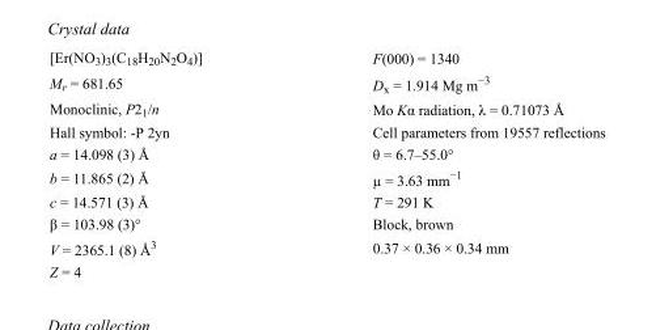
<table><tbody><tr><td>[Er(NO<sub>3</sub>)<sub>3</sub>(C<sub>18</sub>H<sub>20</sub>N<sub>2</sub>O<sub>4</sub>)]</td><td>F(000) = 1340</td></tr><tr><td>M<sub>r</sub> = 681.65</td><td>D<sub>x</sub> = 1.914 Mg m<sup>−3</sup></td></tr><tr><td>Monoclinic, P2<sub>1</sub>/n</td><td>Mo Kα radiation, λ = 0.71073 Å</td></tr><tr><td>Hall symbol: -P 2yn</td><td>Cell parameters from 19557 reflections</td></tr><tr><td>a = 14.098 (3) Å</td><td>θ = 6.7–55.0°</td></tr><tr><td>b = 11.865 (2) Å</td><td>µ = 3.63 mm<sup>−1</sup></td></tr><tr><td>c = 14.571 (3) Å</td><td>T = 291 K</td></tr><tr><td>β = 103.98 (3)°</td><td>Block, brown</td></tr><tr><td>V = 2365.1 (8) Å<sup>3</sup></td><td>0.37 × 0.36 × 0.34 mm</td></tr><tr><td>Z = 4</td><td></td></tr></tbody></table>